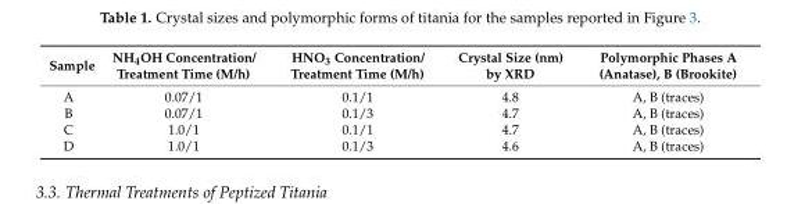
<table><thead><tr><td>Sample</td><td>NH<sub>4</sub>OH Concentration/ Treatment Time (M/h)</td><td>HNO<sub>3</sub> Concentration/ Treatment Time (M/h)</td><td>Crystal Size (nm) by XRD</td><td>Polymorphic Phases A (Anatase), B (Brookite)</td></tr></thead><tbody><tr><td>A</td><td>0.07/1</td><td>0.1/1</td><td>4.8</td><td>A, B (traces)</td></tr><tr><td>B</td><td>0.07/1</td><td>0.1/3</td><td>4.7</td><td>A, B (traces)</td></tr><tr><td>C</td><td>1.0/1</td><td>0.1/1</td><td>4.7</td><td>A, B (traces)</td></tr><tr><td>D</td><td>1.0/1</td><td>0.1/3</td><td>4.6</td><td>A, B (traces)</td></tr></tbody></table>